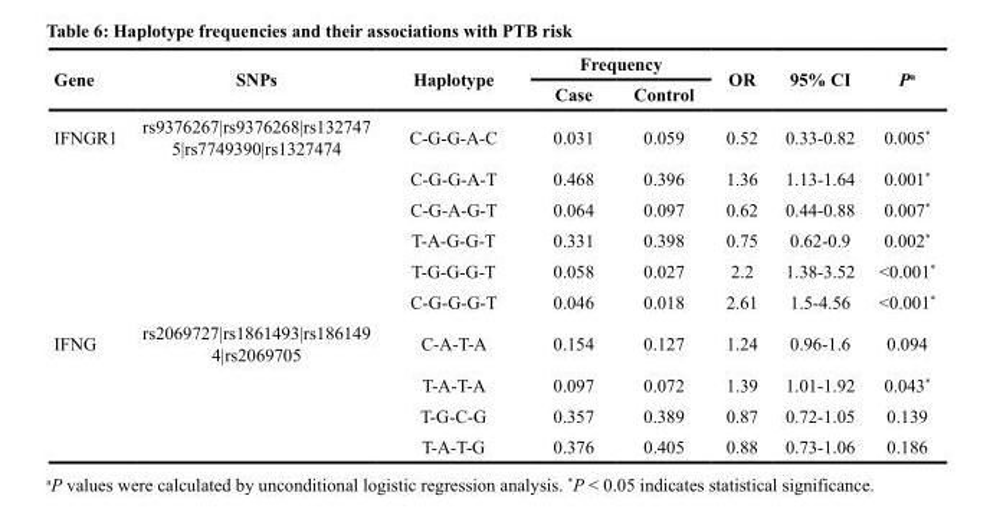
<table><thead><tr><td rowspan="2">Gene</td><td rowspan="2">SNPs</td><td rowspan="2">Haplotype</td><td colspan="2">Frequency</td><td rowspan="2">OR</td><td rowspan="2">95% CI</td><td rowspan="2">P<sup>a</sup></td></tr><tr><td>Case</td><td>Control</td></tr></thead><tbody><tr><td rowspan="6">IFNGR1</td><td>rs9376267|rs9376268|rs132747 5|rs7749390|rs1327474</td><td>C-G-G-A-C</td><td>0.031</td><td>0.059</td><td>0.52</td><td>0.33-0.82</td><td>0.005*</td></tr><tr><td></td><td>C-G-G-A-T</td><td>0.468</td><td>0.396</td><td>1.36</td><td>1.13-1.64</td><td>0.001*</td></tr><tr><td></td><td>C-G-A-G-T</td><td>0.064</td><td>0.097</td><td>0.62</td><td>0.44-0.88</td><td>0.007*</td></tr><tr><td></td><td>T-A-G-G-T</td><td>0.331</td><td>0.398</td><td>0.75</td><td>0.62-0.9</td><td>0.002*</td></tr><tr><td></td><td>T-G-G-G-T</td><td>0.058</td><td>0.027</td><td>2.2</td><td>1.38-3.52</td><td>&lt;0.001*</td></tr><tr><td></td><td>C-G-G-G-T</td><td>0.046</td><td>0.018</td><td>2.61</td><td>1.5-4.56</td><td>&lt;0.001*</td></tr><tr><td rowspan="4">IFNG</td><td>rs2069727|rs1861493|rs186149 4|rs2069705</td><td>C-A-T-A</td><td>0.154</td><td>0.127</td><td>1.24</td><td>0.96-1.6</td><td>0.094</td></tr><tr><td></td><td>T-A-T-A</td><td>0.097</td><td>0.072</td><td>1.39</td><td>1.01-1.92</td><td>0.043*</td></tr><tr><td></td><td>T-G-C-G</td><td>0.357</td><td>0.389</td><td>0.87</td><td>0.72-1.05</td><td>0.139</td></tr><tr><td></td><td>T-A-T-G</td><td>0.376</td><td>0.405</td><td>0.88</td><td>0.73-1.06</td><td>0.186</td></tr></tbody></table>